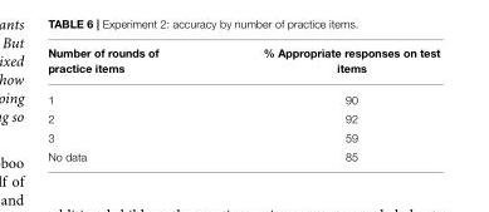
<table><thead><tr><td>Number of rounds of practice items</td><td>% Appropriate responses on test items</td></tr></thead><tbody><tr><td>1</td><td>90</td></tr><tr><td>2</td><td>92</td></tr><tr><td>3</td><td>59</td></tr><tr><td>No data</td><td>85</td></tr></tbody></table>